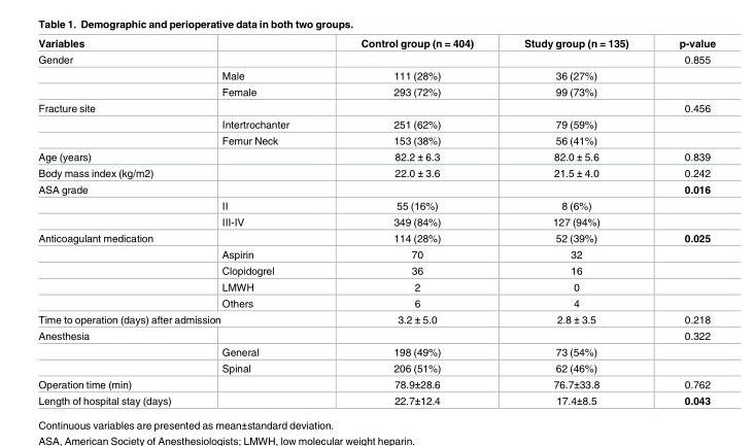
<table><thead><tr><td>Variables</td><td></td><td>Control group (n = 404)</td><td>Study group (n = 135)</td><td>p-value</td></tr></thead><tbody><tr><td rowspan="3">Gender</td><td></td><td></td><td></td><td>0.855</td></tr><tr><td>Male</td><td>111 (28%)</td><td>36 (27%)</td><td></td></tr><tr><td>Female</td><td>293 (72%)</td><td>99 (73%)</td><td></td></tr><tr><td rowspan="3">Fracture site</td><td></td><td></td><td></td><td>0.456</td></tr><tr><td>Intertrochanter</td><td>251 (62%)</td><td>79 (59%)</td><td></td></tr><tr><td>Femur Neck</td><td>153 (38%)</td><td>56 (41%)</td><td></td></tr><tr><td>Age (years)</td><td></td><td>82.2 ± 6.3</td><td>82.0 ± 5.6</td><td>0.839</td></tr><tr><td>Body mass index (kg/m2)</td><td></td><td>22.0 ± 3.6</td><td>21.5 ± 4.0</td><td>0.242</td></tr><tr><td rowspan="3">ASA grade</td><td></td><td></td><td></td><td>0.016</td></tr><tr><td>II</td><td>55 (16%)</td><td>8 (6%)</td><td></td></tr><tr><td>III-IV</td><td>349 (84%)</td><td>127 (94%)</td><td></td></tr><tr><td rowspan="5">Anticoagulant medication</td><td></td><td>114 (28%)</td><td>52 (39%)</td><td>0.025</td></tr><tr><td>Aspirin</td><td>70</td><td>32</td><td></td></tr><tr><td>Clopidogrel</td><td>36</td><td>16</td><td></td></tr><tr><td>LMWH</td><td>2</td><td>0</td><td></td></tr><tr><td>Others</td><td>6</td><td>4</td><td></td></tr><tr><td colspan="2">Time to operation (days) after admission</td><td>3.2 ± 5.0</td><td>2.8 ± 3.5</td><td>0.218</td></tr><tr><td rowspan="3">Anesthesia</td><td></td><td></td><td></td><td>0.322</td></tr><tr><td>General</td><td>198 (49%)</td><td>73 (54%)</td><td></td></tr><tr><td>Spinal</td><td>206 (51%)</td><td>62 (46%)</td><td></td></tr><tr><td>Operation time (min)</td><td></td><td>78.9±28.6</td><td>76.7±33.8</td><td>0.762</td></tr><tr><td>Length of hospital stay (days)</td><td></td><td>22.7±12.4</td><td>17.4±8.5</td><td>0.043</td></tr></tbody></table>